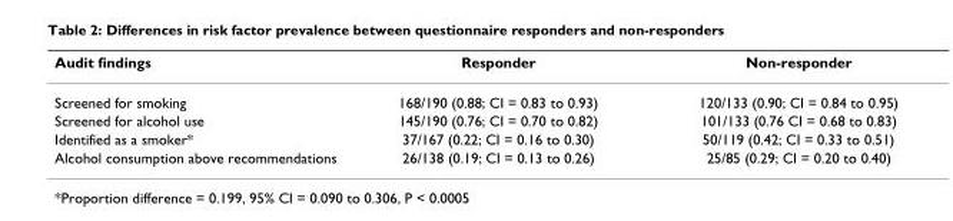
<table><thead><tr><td>Audit findings</td><td>Responder</td><td>Non-responder</td></tr></thead><tbody><tr><td>Screened for smoking</td><td>168/190 (0.88; CI = 0.83 to 0.93)</td><td>120/133 (0.90; CI = 0.84 to 0.95)</td></tr><tr><td>Screened for alcohol use</td><td>145/190 (0.76; CI = 0.70 to 0.82)</td><td>101/133 (0.76 CI = 0.68 to 0.83)</td></tr><tr><td>Identified as a smoker*</td><td>37/167 (0.22; CI = 0.16 to 0.30)</td><td>50/119 (0.42; CI = 0.33 to 0.51)</td></tr><tr><td>Alcohol consumption above recommendations</td><td>26/138 (0.19; CI = 0.13 to 0.26)</td><td>25/85 (0.29; CI = 0.20 to 0.40)</td></tr></tbody></table>